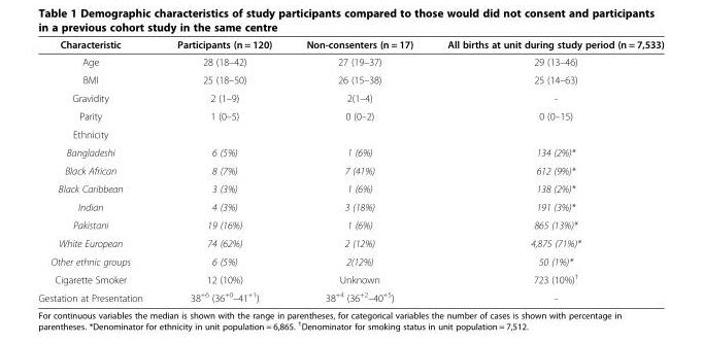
<table><thead><tr><td>Characteristic</td><td>Participants (n = 120)</td><td>Non-consenters (n = 17)</td><td>All births at unit during study period (n = 7,533)</td></tr></thead><tbody><tr><td>Age</td><td>28 (18–42)</td><td>27 (19–37)</td><td>29 (13–46)</td></tr><tr><td>BMI</td><td>25 (18–50)</td><td>26 (15–38)</td><td>25 (14–63)</td></tr><tr><td>Gravidity</td><td>2 (1–9)</td><td>2(1–4)</td><td>-</td></tr><tr><td>Parity</td><td>1 (0–5)</td><td>0 (0–2)</td><td>0 (0–15)</td></tr><tr><td colspan="4">Ethnicity</td></tr><tr><td>Bangladeshi</td><td>6 (5%)</td><td>1 (6%)</td><td>134 (2%)*</td></tr><tr><td>Black African</td><td>8 (7%)</td><td>7 (41%)</td><td>612 (9%)*</td></tr><tr><td>Black Caribbean</td><td>3 (3%)</td><td>1 (6%)</td><td>138 (2%)*</td></tr><tr><td>Indian</td><td>4 (3%)</td><td>3 (18%)</td><td>191 (3%)*</td></tr><tr><td>Pakistani</td><td>19 (16%)</td><td>1 (6%)</td><td>865 (13%)*</td></tr><tr><td>White European</td><td>74 (62%)</td><td>2 (12%)</td><td>4,875 (71%)*</td></tr><tr><td>Other ethnic groups</td><td>6 (5%)</td><td>2(12%)</td><td>50 (1%)*</td></tr><tr><td>Cigarette Smoker</td><td>12 (10%)</td><td>Unknown</td><td>723 (10%)<sup>†</sup></td></tr><tr><td>Gestation at Presentation</td><td>38<sup>+6</sup> (36<sup>+0</sup>–41<sup>+1</sup>)</td><td>38<sup>+4</sup> (36<sup>+2</sup>–40<sup>+5</sup>)</td><td>-</td></tr></tbody></table>